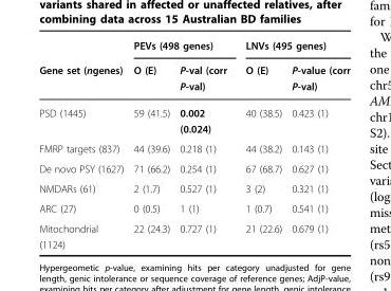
<table><thead><tr><td rowspan="2">Gene set (ngenes)</td><td colspan="2">PEVs (498 genes)</td><td colspan="2">LNVs (495 genes)</td></tr><tr><td>O (E)</td><td>P-val (corr P-val)</td><td>O (E)</td><td>P-value (corr P-val)</td></tr></thead><tbody><tr><td>PSD (1445)</td><td>59 (41.5)</td><td>0.002 (0.024)</td><td>40 (38.5)</td><td>0.423 (1)</td></tr><tr><td>FMRP targets (837)</td><td>44 (39.6)</td><td>0.218 (1)</td><td>44 (38.2)</td><td>0.143 (1)</td></tr><tr><td>De novo PSY (1627)</td><td>71 (66.2)</td><td>0.254 (1)</td><td>67 (68.7)</td><td>0.627 (1)</td></tr><tr><td>NMDARs (61)</td><td>2 (1.7)</td><td>0.527 (1)</td><td>3 (2)</td><td>0.321 (1)</td></tr><tr><td>ARC (27)</td><td>0 (0.5)</td><td>1 (1)</td><td>1 (0.7)</td><td>0.541 (1)</td></tr><tr><td>Mitochondrial (1124)</td><td>22 (24.3)</td><td>0.727 (1)</td><td>21 (22.6)</td><td>0.679 (1)</td></tr></tbody></table>